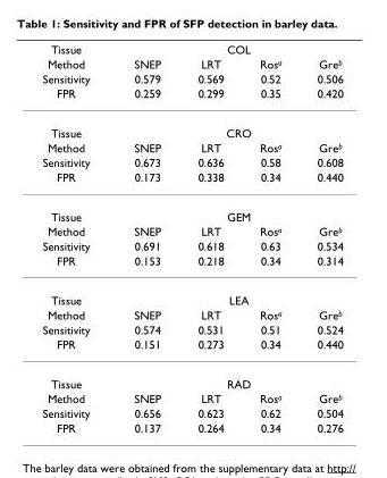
<table><thead><tr><td rowspan="4">Tissue Method Sensitivity FPR</td><td colspan="4">COL</td></tr><tr><td rowspan="3">SNEP 0.579 0.259</td><td rowspan="3">LRT 0.569 0.299</td><td rowspan="3">Rosa 0.52 0.35</td><td rowspan="3">Greb 0.506 0.420</td></tr><tr></tr><tr></tr></thead><tbody><tr><td>Tissue</td><td colspan="4">CRO</td></tr><tr><td>Method</td><td>SNEP</td><td>LRT</td><td>Ros<sup>a</sup></td><td>Gre<sup>b</sup></td></tr><tr><td>Sensitivity</td><td>0.673</td><td>0.636</td><td>0.58</td><td>0.608</td></tr><tr><td>FPR</td><td>0.173</td><td>0.338</td><td>0.34</td><td>0.440</td></tr><tr><td>Tissue</td><td colspan="4">GEM</td></tr><tr><td>Method</td><td>SNEP</td><td>LRT</td><td>Ros<sup>a</sup></td><td>Gre<sup>b</sup></td></tr><tr><td>Sensitivity</td><td>0.691</td><td>0.618</td><td>0.63</td><td>0.534</td></tr><tr><td>FPR</td><td>0.153</td><td>0.218</td><td>0.34</td><td>0.314</td></tr><tr><td>Tissue</td><td colspan="4">LEA</td></tr><tr><td>Method</td><td>SNEP</td><td>LRT</td><td>Ros<sup>a</sup></td><td>Gre<sup>b</sup></td></tr><tr><td>Sensitivity</td><td>0.574</td><td>0.531</td><td>0.51</td><td>0.524</td></tr><tr><td>FPR</td><td>0.151</td><td>0.273</td><td>0.34</td><td>0.440</td></tr><tr><td>Tissue</td><td colspan="4">RAD</td></tr><tr><td>Method</td><td>SNEP</td><td>LRT</td><td>Ros<sup>a</sup></td><td>Gre<sup>b</sup></td></tr><tr><td>Sensitivity</td><td>0.656</td><td>0.623</td><td>0.62</td><td>0.504</td></tr><tr><td>FPR</td><td>0.137</td><td>0.264</td><td>0.34</td><td>0.276</td></tr></tbody></table>